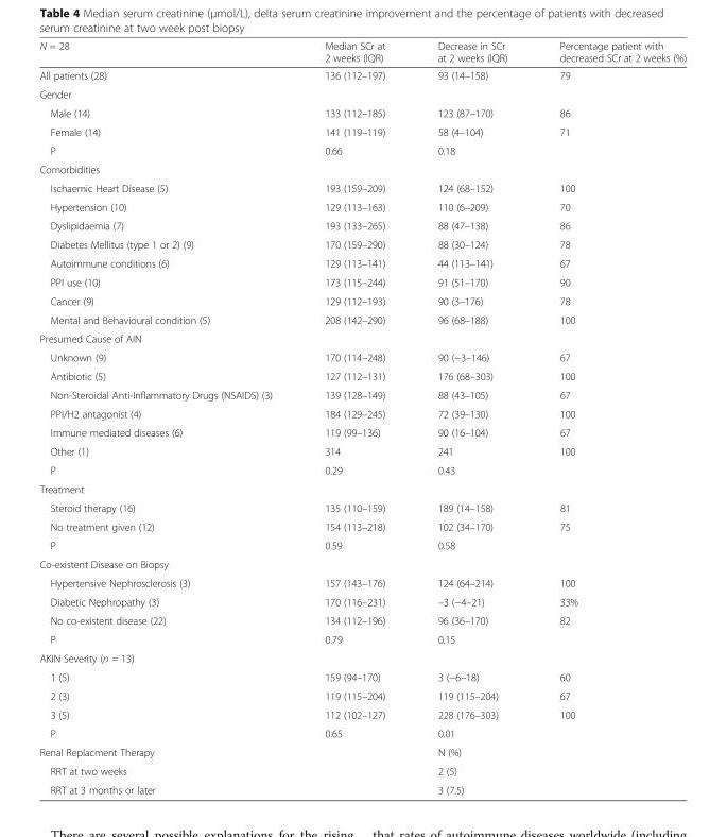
<table><thead><tr><td>N = 28</td><td>Median SCr at 2 weeks (IQR)</td><td>Decrease in SCr at 2 weeks (IQR)</td><td>Percentage patient with decreased SCr at 2 weeks (%)</td></tr></thead><tbody><tr><td>All patients (28)</td><td>136 (112–197)</td><td>93 (14–158)</td><td>79</td></tr><tr><td colspan="4">Gender</td></tr><tr><td>Male (14)</td><td>133 (112–185)</td><td>123 (87–170)</td><td>86</td></tr><tr><td>Female (14)</td><td>141 (119–119)</td><td>58 (4–104)</td><td>71</td></tr><tr><td>P</td><td>0.66</td><td>0.18</td><td></td></tr><tr><td colspan="4">Comorbidities</td></tr><tr><td>Ischaemic Heart Disease (5)</td><td>193 (159–209)</td><td>124 (68–152)</td><td>100</td></tr><tr><td>Hypertension (10)</td><td>129 (113–163)</td><td>110 (6–209)</td><td>70</td></tr><tr><td>Dyslipidaemia (7)</td><td>193 (133–265)</td><td>88 (47–138)</td><td>86</td></tr><tr><td>Diabetes Mellitus (type 1 or 2) (9)</td><td>170 (159–290)</td><td>88 (30–124)</td><td>78</td></tr><tr><td>Autoimmune conditions (6)</td><td>129 (113–141)</td><td>44 (113–141)</td><td>67</td></tr><tr><td>PPI use (10)</td><td>173 (115–244)</td><td>91 (51–170)</td><td>90</td></tr><tr><td>Cancer (9)</td><td>129 (112–193)</td><td>90 (3–176)</td><td>78</td></tr><tr><td>Mental and Behavioural condition (5)</td><td>208 (142–290)</td><td>96 (68–188)</td><td>100</td></tr><tr><td colspan="4">Presumed Cause of AIN</td></tr><tr><td>Unknown (9)</td><td>170 (114–248)</td><td>90 (−3–146)</td><td>67</td></tr><tr><td>Antibiotic (5)</td><td>127 (112–131)</td><td>176 (68–303)</td><td>100</td></tr><tr><td>Non-Steroidal Anti-Inflammatory Drugs (NSAIDS) (3)</td><td>139 (128–149)</td><td>88 (43–105)</td><td>67</td></tr><tr><td>PPI/H2 antagonist (4)</td><td>184 (129–245)</td><td>72 (39–130)</td><td>100</td></tr><tr><td>Immune mediated diseases (6)</td><td>119 (99–136)</td><td>90 (16–104)</td><td>67</td></tr><tr><td>Other (1)</td><td>314</td><td>241</td><td>100</td></tr><tr><td>P</td><td>0.29</td><td>0.43</td><td></td></tr><tr><td colspan="4">Treatment</td></tr><tr><td>Steroid therapy (16)</td><td>135 (110–159)</td><td>189 (14–158)</td><td>81</td></tr><tr><td>No treatment given (12)</td><td>154 (113–218)</td><td>102 (34–170)</td><td>75</td></tr><tr><td>P</td><td>0.59</td><td>0.58</td><td></td></tr><tr><td colspan="4">Co-existent Disease on Biopsy</td></tr><tr><td>Hypertensive Nephrosclerosis (3)</td><td>157 (143–176)</td><td>124 (64–214)</td><td>100</td></tr><tr><td>Diabetic Nephropathy (3)</td><td>170 (116–231)</td><td>–3 (−4–21)</td><td>33%</td></tr><tr><td>No co-existent disease (22)</td><td>134 (112–196)</td><td>96 (36–170)</td><td>82</td></tr><tr><td>P</td><td>0.79</td><td>0.15</td><td></td></tr><tr><td colspan="4">AKIN Severity (n = 13)</td></tr><tr><td>1 (5)</td><td>159 (94–170)</td><td>3 (−6–18)</td><td>60</td></tr><tr><td>2 (3)</td><td>119 (115–204)</td><td>119 (115–204)</td><td>67</td></tr><tr><td>3 (5)</td><td>112 (102–127)</td><td>228 (176–303)</td><td>100</td></tr><tr><td>P</td><td>0.65</td><td>0.01</td><td></td></tr><tr><td colspan="2">Renal Replacment Therapy</td><td colspan="2">N (%)</td></tr><tr><td colspan="2">RRT at two weeks</td><td colspan="2">2 (5)</td></tr><tr><td colspan="2">RRT at 3 months or later</td><td colspan="2">3 (7.5)</td></tr></tbody></table>